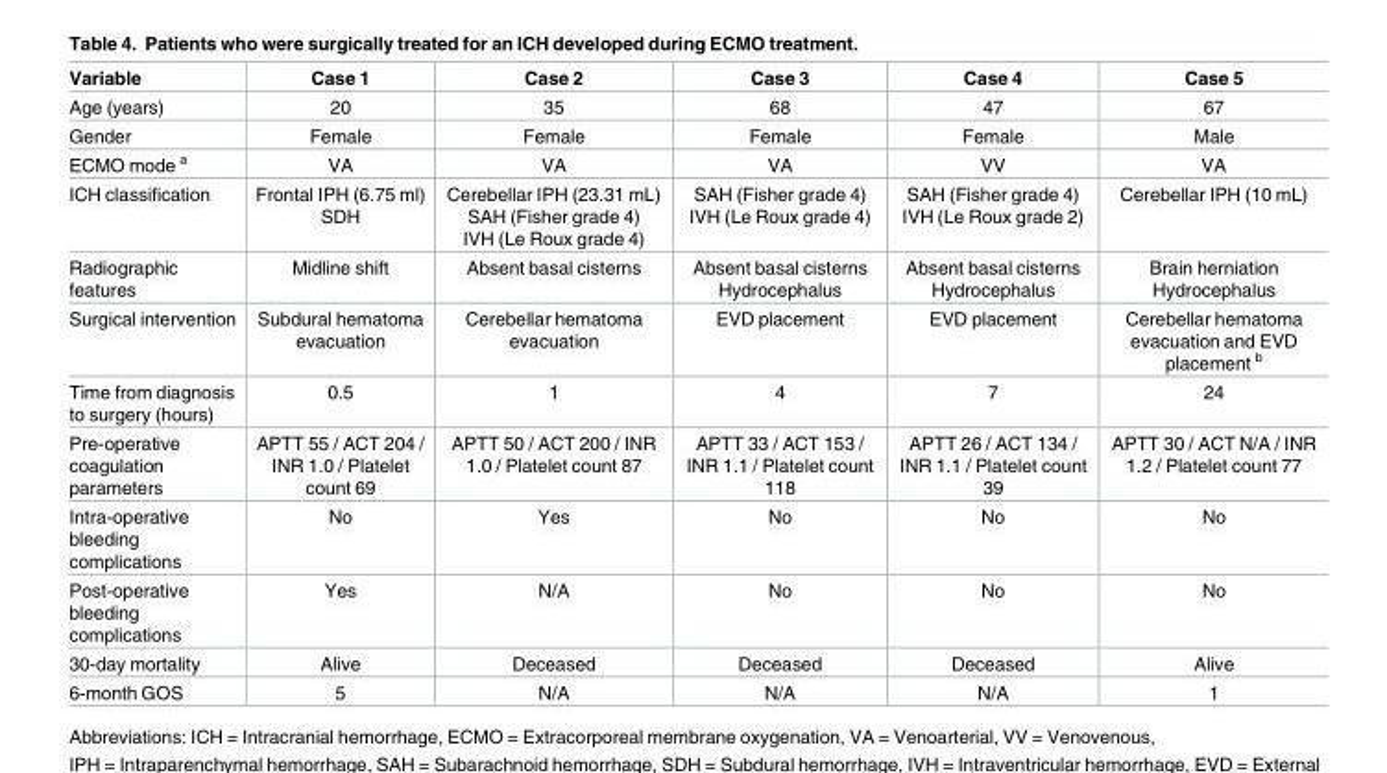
<table><thead><tr><td>Variable</td><td>Case 1</td><td>Case 2</td><td>Case 3</td><td>Case 4</td><td>Case 5</td></tr></thead><tbody><tr><td>Age (years)</td><td>20</td><td>35</td><td>68</td><td>47</td><td>67</td></tr><tr><td>Gender</td><td>Female</td><td>Female</td><td>Female</td><td>Female</td><td>Male</td></tr><tr><td>ECMO mode <sup>a</sup></td><td>VA</td><td>VA</td><td>VA</td><td>VV</td><td>VA</td></tr><tr><td>ICH classification</td><td>Frontal IPH (6.75 ml) SDH</td><td>Cerebellar IPH (23.31 mL) SAH (Fisher grade 4) IVH (Le Roux grade 4)</td><td>SAH (Fisher grade 4) IVH (Le Roux grade 4)</td><td>SAH (Fisher grade 4) IVH (Le Roux grade 2)</td><td>Cerebellar IPH (10 mL)</td></tr><tr><td>Radiographic features</td><td>Midline shift</td><td>Absent basal cisterns</td><td>Absent basal cisterns Hydrocephalus</td><td>Absent basal cisterns Hydrocephalus</td><td>Brain herniation Hydrocephalus</td></tr><tr><td>Surgical intervention</td><td>Subdural hematoma evacuation</td><td>Cerebellar hematoma evacuation</td><td>EVD placement</td><td>EVD placement</td><td>Cerebellar hematoma evacuation and EVD placement <sup>b</sup></td></tr><tr><td>Time from diagnosis to surgery (hours)</td><td>0.5</td><td>1</td><td>4</td><td>7</td><td>24</td></tr><tr><td>Pre-operative coagulation parameters</td><td>APTT 55 / ACT 204 / INR 1.0 / Platelet count 69</td><td>APTT 50 / ACT 200 / INR 1.0 / Platelet count 87</td><td>APTT 33 / ACT 153 / INR 1.1 / Platelet count 118</td><td>APTT 26 / ACT 134 / INR 1.1 / Platelet count 39</td><td>APTT 30 / ACT N/A / INR 1.2 / Platelet count 77</td></tr><tr><td>Intra-operative bleeding complications</td><td>No</td><td>Yes</td><td>No</td><td>No</td><td>No</td></tr><tr><td>Post-operative bleeding complications</td><td>Yes</td><td>N/A</td><td>No</td><td>No</td><td>No</td></tr><tr><td>30-day mortality</td><td>Alive</td><td>Deceased</td><td>Deceased</td><td>Deceased</td><td>Alive</td></tr><tr><td>6-month GOS</td><td>5</td><td>N/A</td><td>N/A</td><td>N/A</td><td>1</td></tr></tbody></table>